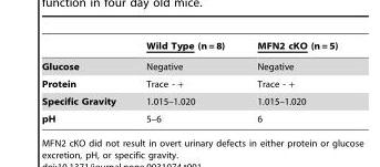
<table><thead><tr><td></td><td>Wild Type (n = 8)</td><td>MFN2 cKO (n = 5)</td></tr></thead><tbody><tr><td>Glucose</td><td>Negative</td><td>Negative</td></tr><tr><td>Protein</td><td>Trace - +</td><td>Trace - +</td></tr><tr><td>Specific Gravity</td><td>1.015–1.020</td><td>1.015–1.020</td></tr><tr><td>pH</td><td>5–6</td><td>6</td></tr></tbody></table>